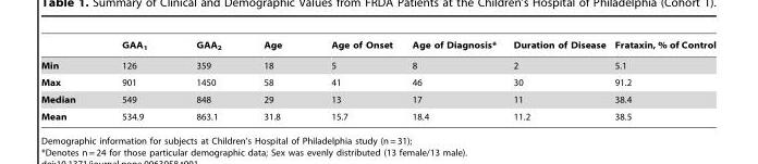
<table><thead><tr><td></td><td>GAA<sub>1</sub></td><td>GAA<sub>2</sub></td><td>Age</td><td>Age of Onset</td><td>Age of Diagnosis*</td><td>Duration of Disease</td><td>Frataxin, % of Control</td></tr></thead><tbody><tr><td>Min</td><td>126</td><td>359</td><td>18</td><td>5</td><td>8</td><td>2</td><td>5.1</td></tr><tr><td>Max</td><td>901</td><td>1450</td><td>58</td><td>41</td><td>46</td><td>30</td><td>91.2</td></tr><tr><td>Median</td><td>549</td><td>848</td><td>29</td><td>13</td><td>17</td><td>11</td><td>38.4</td></tr><tr><td>Mean</td><td>534.9</td><td>863.1</td><td>31.8</td><td>15.7</td><td>18.4</td><td>11.2</td><td>38.5</td></tr></tbody></table>